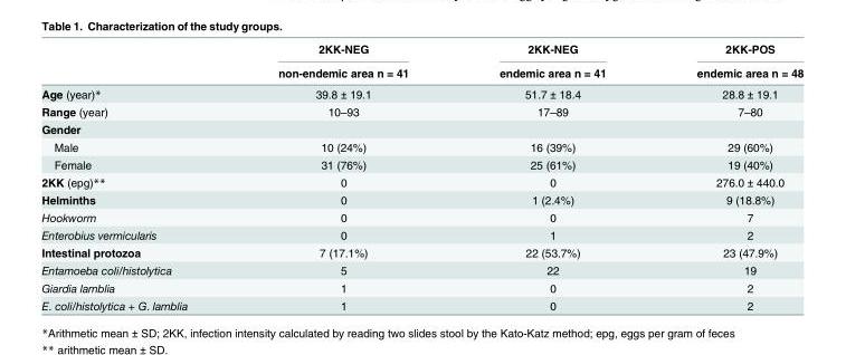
<table><thead><tr><td rowspan="2"></td><td rowspan="2">2KK-NEG non-endemic area n = 41</td><td rowspan="2">2KK-NEG endemic area n = 41</td><td rowspan="2">2KK-POS endemic area n = 48</td></tr><tr></tr></thead><tbody><tr><td>Age (year)*</td><td>39.8 ± 19.1</td><td>51.7 ± 18.4</td><td>28.8 ± 19.1</td></tr><tr><td>Range (year)</td><td>10–93</td><td>17–89</td><td>7–80</td></tr><tr><td colspan="4">Gender</td></tr><tr><td>Male</td><td>10 (24%)</td><td>16 (39%)</td><td>29 (60%)</td></tr><tr><td>Female</td><td>31 (76%)</td><td>25 (61%)</td><td>19 (40%)</td></tr><tr><td>2KK (epg)**</td><td>0</td><td>0</td><td>276.0 ± 440.0</td></tr><tr><td>Helminths</td><td>0</td><td>1 (2.4%)</td><td>9 (18.8%)</td></tr><tr><td>Hookworm</td><td>0</td><td>0</td><td>7</td></tr><tr><td>Enterobius vermicularis</td><td>0</td><td>1</td><td>2</td></tr><tr><td>Intestinal protozoa</td><td>7 (17.1%)</td><td>22 (53.7%)</td><td>23 (47.9%)</td></tr><tr><td>Entamoeba coli/histolytica</td><td>5</td><td>22</td><td>19</td></tr><tr><td>Giardia lamblia</td><td>1</td><td>0</td><td>2</td></tr><tr><td>E. coli/histolytica + G. lamblia</td><td>1</td><td>0</td><td>2</td></tr></tbody></table>